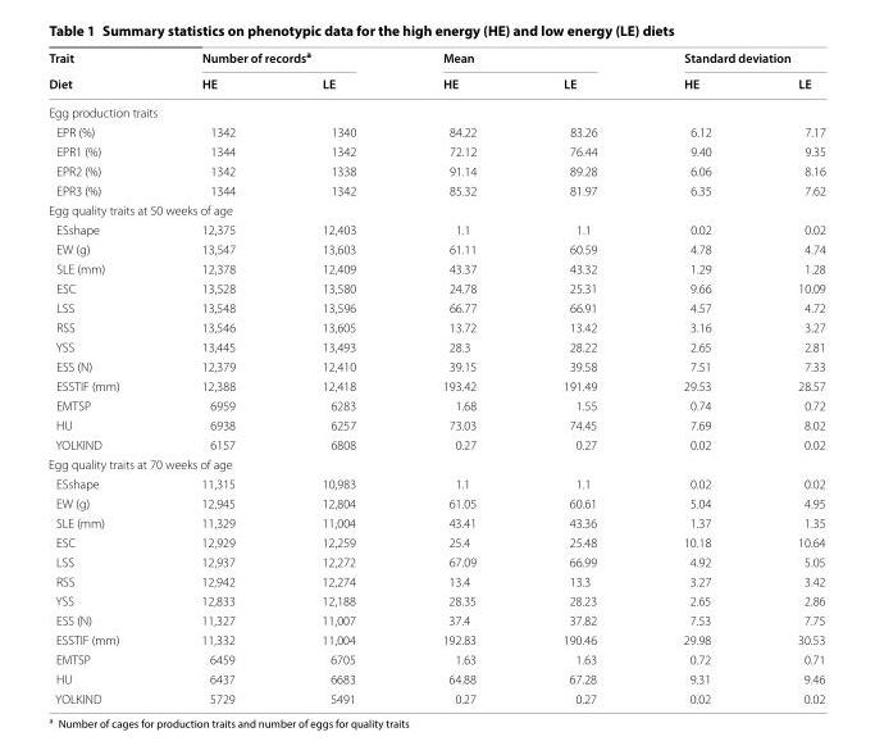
<table><thead><tr><td rowspan="2">Trait Diet</td><td colspan="2">Number of records<sup>a</sup></td><td colspan="2">Mean</td><td colspan="2">Standard deviation</td></tr><tr><td>HE</td><td>LE</td><td>HE</td><td>LE</td><td>HE</td><td>LE</td></tr></thead><tbody><tr><td colspan="7">Egg production traits</td></tr><tr><td>EPR (%)</td><td>1342</td><td>1340</td><td>84.22</td><td>83.26</td><td>6.12</td><td>7.17</td></tr><tr><td>EPR1 (%)</td><td>1344</td><td>1342</td><td>72.12</td><td>76.44</td><td>9.40</td><td>9.35</td></tr><tr><td>EPR2 (%)</td><td>1342</td><td>1338</td><td>91.14</td><td>89.28</td><td>6.06</td><td>8.16</td></tr><tr><td>EPR3 (%)</td><td>1344</td><td>1342</td><td>85.32</td><td>81.97</td><td>6.35</td><td>7.62</td></tr><tr><td colspan="7">Egg quality traits at 50 weeks of age</td></tr><tr><td>ESshape</td><td>12,375</td><td>12,403</td><td>1.1</td><td>1.1</td><td>0.02</td><td>0.02</td></tr><tr><td>EW (g)</td><td>13,547</td><td>13,603</td><td>61.11</td><td>60.59</td><td>4.78</td><td>4.74</td></tr><tr><td>SLE (mm)</td><td>12,378</td><td>12,409</td><td>43.37</td><td>43.32</td><td>1.29</td><td>1.28</td></tr><tr><td>ESC</td><td>13,528</td><td>13,580</td><td>24.78</td><td>25.31</td><td>9.66</td><td>10.09</td></tr><tr><td>LSS</td><td>13,548</td><td>13,596</td><td>66.77</td><td>66.91</td><td>4.57</td><td>4.72</td></tr><tr><td>RSS</td><td>13,546</td><td>13,605</td><td>13.72</td><td>13.42</td><td>3.16</td><td>3.27</td></tr><tr><td>YSS</td><td>13,445</td><td>13,493</td><td>28.3</td><td>28.22</td><td>2.65</td><td>2.81</td></tr><tr><td>ESS (N)</td><td>12,379</td><td>12,410</td><td>39.15</td><td>39.58</td><td>7.51</td><td>7.33</td></tr><tr><td>ESSTIF (mm)</td><td>12,388</td><td>12,418</td><td>193.42</td><td>191.49</td><td>29.53</td><td>28.57</td></tr><tr><td>EMTSP</td><td>6959</td><td>6283</td><td>1.68</td><td>1.55</td><td>0.74</td><td>0.72</td></tr><tr><td>HU</td><td>6938</td><td>6257</td><td>73.03</td><td>74.45</td><td>7.69</td><td>8.02</td></tr><tr><td>YOLKIND</td><td>6157</td><td>6808</td><td>0.27</td><td>0.27</td><td>0.02</td><td>0.02</td></tr><tr><td colspan="7">Egg quality traits at 70 weeks of age</td></tr><tr><td>ESshape</td><td>11,315</td><td>10,983</td><td>1.1</td><td>1.1</td><td>0.02</td><td>0.02</td></tr><tr><td>EW (g)</td><td>12,945</td><td>12,804</td><td>61.05</td><td>60.61</td><td>5.04</td><td>4.95</td></tr><tr><td>SLE (mm)</td><td>11,329</td><td>11,004</td><td>43.41</td><td>43.36</td><td>1.37</td><td>1.35</td></tr><tr><td>ESC</td><td>12,929</td><td>12,259</td><td>25.4</td><td>25.48</td><td>10.18</td><td>10.64</td></tr><tr><td>LSS</td><td>12,937</td><td>12,272</td><td>67.09</td><td>66.99</td><td>4.92</td><td>5.05</td></tr><tr><td>RSS</td><td>12,942</td><td>12,274</td><td>13.4</td><td>13.3</td><td>3.27</td><td>3.42</td></tr><tr><td>YSS</td><td>12,833</td><td>12,188</td><td>28.35</td><td>28.23</td><td>2.65</td><td>2.86</td></tr><tr><td>ESS (N)</td><td>11,327</td><td>11,007</td><td>37.4</td><td>37.82</td><td>7.53</td><td>7.75</td></tr><tr><td>ESSTIF (mm)</td><td>11,332</td><td>11,004</td><td>192.83</td><td>190.46</td><td>29.98</td><td>30.53</td></tr><tr><td>EMTSP</td><td>6459</td><td>6705</td><td>1.63</td><td>1.63</td><td>0.72</td><td>0.71</td></tr><tr><td>HU</td><td>6437</td><td>6683</td><td>64.88</td><td>67.28</td><td>9.31</td><td>9.46</td></tr><tr><td>YOLKIND</td><td>5729</td><td>5491</td><td>0.27</td><td>0.27</td><td>0.02</td><td>0.02</td></tr></tbody></table>